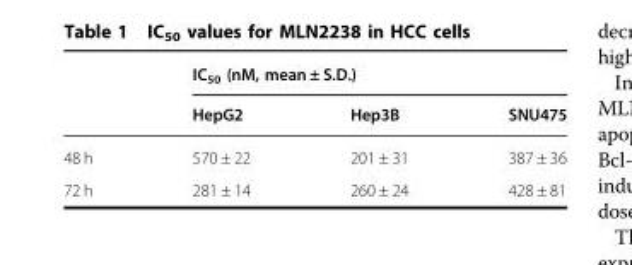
<table><thead><tr><td rowspan="2"></td><td colspan="3">IC<sub>50</sub> (nM, mean ± S.D.)</td></tr><tr><td>HepG2</td><td>Hep3B</td><td>SNU475</td></tr></thead><tbody><tr><td>48 h</td><td>570 ± 22</td><td>201 ± 31</td><td>387 ± 36</td></tr><tr><td>72 h</td><td>281 ± 14</td><td>260 ± 24</td><td>428 ± 81</td></tr></tbody></table>